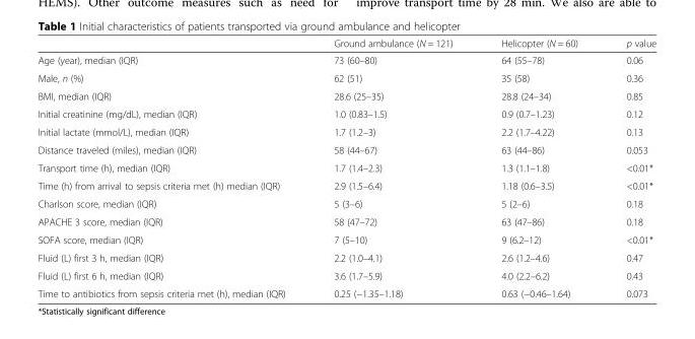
<table><thead><tr><td></td><td>Ground ambulance (N = 121)</td><td>Helicopter (N = 60)</td><td>p value</td></tr></thead><tbody><tr><td>Age (year), median (IQR)</td><td>73 (60–80)</td><td>64 (55–78)</td><td>0.06</td></tr><tr><td>Male, n (%)</td><td>62 (51)</td><td>35 (58)</td><td>0.36</td></tr><tr><td>BMI, median (IQR)</td><td>28.6 (25–35)</td><td>28.8 (24–34)</td><td>0.85</td></tr><tr><td>Initial creatinine (mg/dL), median (IQR)</td><td>1.0 (0.83–1.5)</td><td>0.9 (0.7–1.23)</td><td>0.12</td></tr><tr><td>Initial lactate (mmol/L), median (IQR)</td><td>1.7 (1.2–3)</td><td>2.2 (1.7–4.22)</td><td>0.13</td></tr><tr><td>Distance traveled (miles), median (IQR)</td><td>58 (44–67)</td><td>63 (44–86)</td><td>0.053</td></tr><tr><td>Transport time (h), median (IQR)</td><td>1.7 (1.4–2.3)</td><td>1.3 (1.1–1.8)</td><td>&lt;0.01*</td></tr><tr><td>Time (h) from arrival to sepsis criteria met (h) median (IQR)</td><td>2.9 (1.5–6.4)</td><td>1.18 (0.6–3.5)</td><td>&lt;0.01*</td></tr><tr><td>Charlson score, median (IQR)</td><td>5 (3–6)</td><td>5 (2–6)</td><td>0.18</td></tr><tr><td>APACHE 3 score, median (IQR)</td><td>58 (47–72)</td><td>63 (47–86)</td><td>0.18</td></tr><tr><td>SOFA score, median (IQR)</td><td>7 (5–10)</td><td>9 (6.2–12)</td><td>&lt;0.01*</td></tr><tr><td>Fluid (L) first 3 h, median (IQR)</td><td>2.2 (1.0–4.1)</td><td>2.6 (1.2–4.6)</td><td>0.47</td></tr><tr><td>Fluid (L) first 6 h, median (IQR)</td><td>3.6 (1.7–5.9)</td><td>4.0 (2.2–6.2)</td><td>0.43</td></tr><tr><td>Time to antibiotics from sepsis criteria met (h), median (IQR)</td><td>0.25 (−1.35–1.18)</td><td>0.63 (−0.46–1.64)</td><td>0.073</td></tr></tbody></table>